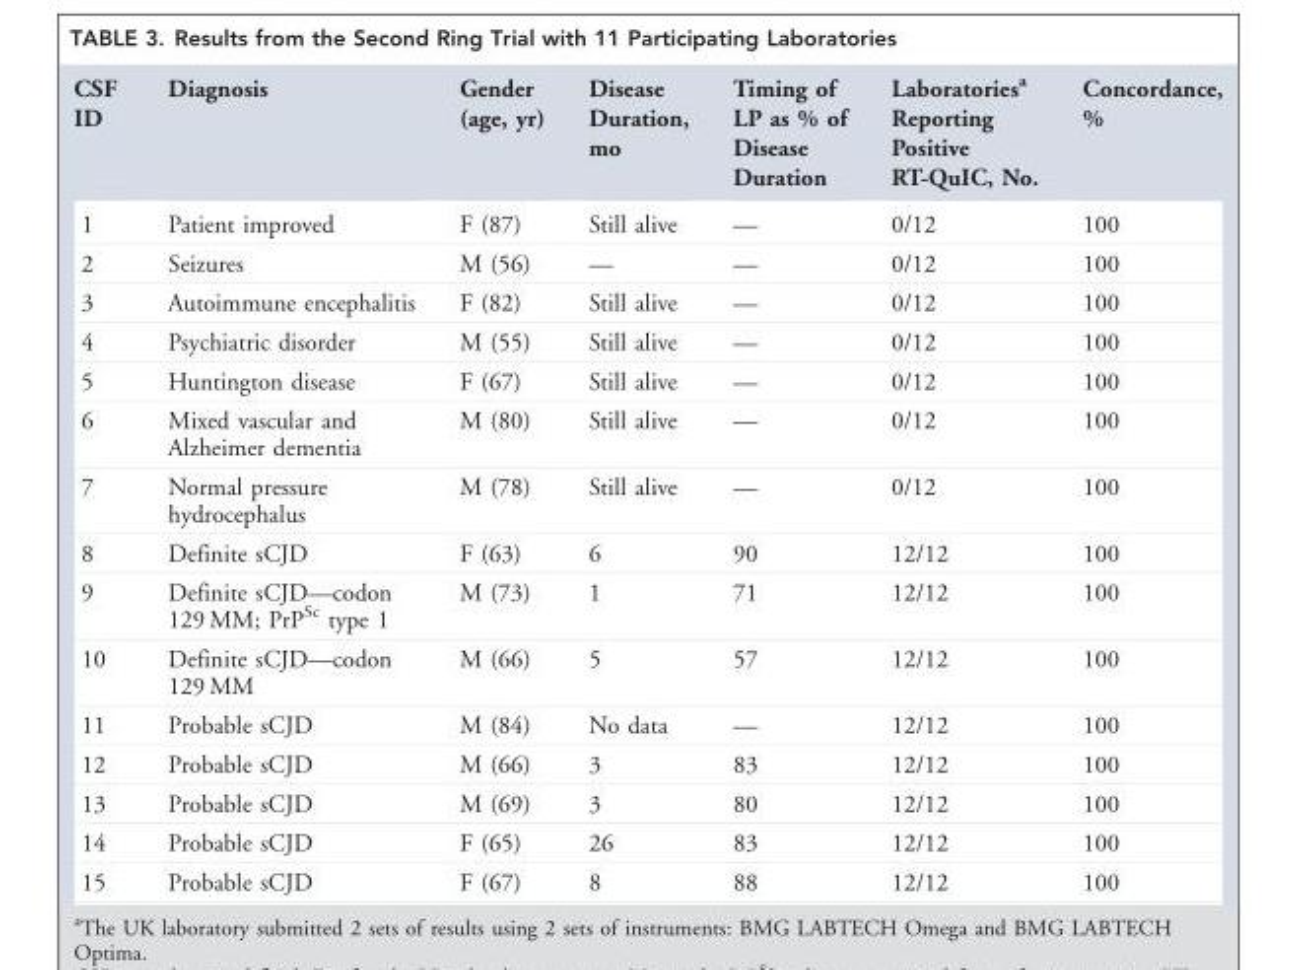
<table><thead><tr><td>CSF ID</td><td>Diagnosis</td><td>Gender (age, yr)</td><td>Disease Duration, mo</td><td>Timing of LP as % of Disease Duration</td><td>Laboratories<sup>a</sup> Reporting Positive RT-QuIC, No.</td><td>Concordance, %</td></tr></thead><tbody><tr><td>1</td><td>Patient improved</td><td>F (87)</td><td>Still alive</td><td>—</td><td>0/12</td><td>100</td></tr><tr><td>2</td><td>Seizures</td><td>M (56)</td><td>—</td><td>—</td><td>0/12</td><td>100</td></tr><tr><td>3</td><td>Autoimmune encephalitis</td><td>F (82)</td><td>Still alive</td><td>—</td><td>0/12</td><td>100</td></tr><tr><td>4</td><td>Psychiatric disorder</td><td>M (55)</td><td>Still alive</td><td>—</td><td>0/12</td><td>100</td></tr><tr><td>5</td><td>Huntington disease</td><td>F (67)</td><td>Still alive</td><td>—</td><td>0/12</td><td>100</td></tr><tr><td>6</td><td>Mixed vascular and Alzheimer dementia</td><td>M (80)</td><td>Still alive</td><td>—</td><td>0/12</td><td>100</td></tr><tr><td>7</td><td>Normal pressure hydrocephalus</td><td>M (78)</td><td>Still alive</td><td>—</td><td>0/12</td><td>100</td></tr><tr><td>8</td><td>Definite sCJD</td><td>F (63)</td><td>6</td><td>90</td><td>12/12</td><td>100</td></tr><tr><td>9</td><td>Definite sCJD—codon 129 MM; PrP<sup>Sc</sup> type 1</td><td>M (73)</td><td>1</td><td>71</td><td>12/12</td><td>100</td></tr><tr><td>10</td><td>Definite sCJD—codon 129 MM</td><td>M (66)</td><td>5</td><td>57</td><td>12/12</td><td>100</td></tr><tr><td>11</td><td>Probable sCJD</td><td>M (84)</td><td>No data</td><td>—</td><td>12/12</td><td>100</td></tr><tr><td>12</td><td>Probable sCJD</td><td>M (66)</td><td>3</td><td>83</td><td>12/12</td><td>100</td></tr><tr><td>13</td><td>Probable sCJD</td><td>M (69)</td><td>3</td><td>80</td><td>12/12</td><td>100</td></tr><tr><td>14</td><td>Probable sCJD</td><td>F (65)</td><td>26</td><td>83</td><td>12/12</td><td>100</td></tr><tr><td>15</td><td>Probable sCJD</td><td>F (67)</td><td>8</td><td>88</td><td>12/12</td><td>100</td></tr></tbody></table>